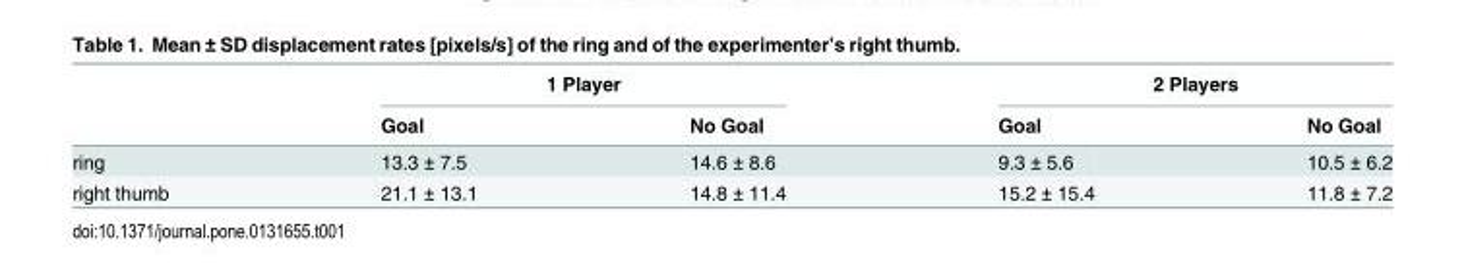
<table><thead><tr><td rowspan="2"></td><td colspan="2">1 Player</td><td colspan="2">2 Players</td></tr><tr><td>Goal</td><td>No Goal</td><td>Goal</td><td>No Goal</td></tr></thead><tbody><tr><td>ring</td><td>13.3 ± 7.5</td><td>14.6 ± 8.6</td><td>9.3 ± 5.6</td><td>10.5 ± 6.2</td></tr><tr><td>right thumb</td><td>21.1 ± 13.1</td><td>14.8 ± 11.4</td><td>15.2 ± 15.4</td><td>11.8 ± 7.2</td></tr></tbody></table>